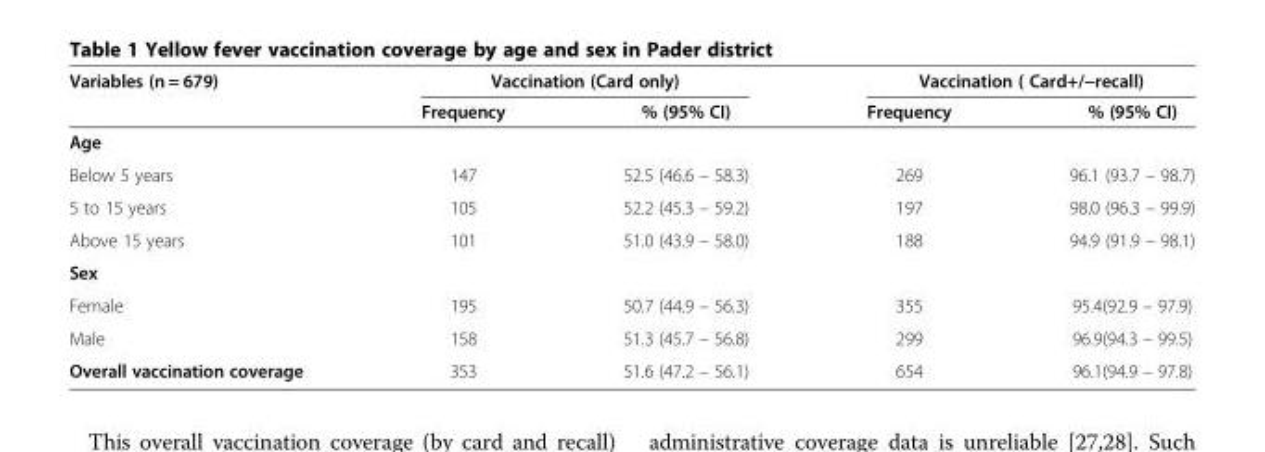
<table><thead><tr><td rowspan="2">Variables (n = 679)</td><td colspan="2">Vaccination (Card only)</td><td colspan="2">Vaccination ( Card+/−recall)</td></tr><tr><td>Frequency</td><td>% (95% CI)</td><td>Frequency</td><td>% (95% CI)</td></tr></thead><tbody><tr><td colspan="5">Age</td></tr><tr><td>Below 5 years</td><td>147</td><td>52.5 (46.6 – 58.3)</td><td>269</td><td>96.1 (93.7 – 98.7)</td></tr><tr><td>5 to 15 years</td><td>105</td><td>52.2 (45.3 – 59.2)</td><td>197</td><td>98.0 (96.3 – 99.9)</td></tr><tr><td>Above 15 years</td><td>101</td><td>51.0 (43.9 – 58.0)</td><td>188</td><td>94.9 (91.9 – 98.1)</td></tr><tr><td colspan="5">Sex</td></tr><tr><td>Female</td><td>195</td><td>50.7 (44.9 – 56.3)</td><td>355</td><td>95.4(92.9 – 97.9)</td></tr><tr><td>Male</td><td>158</td><td>51.3 (45.7 – 56.8)</td><td>299</td><td>96.9(94.3 – 99.5)</td></tr><tr><td>Overall vaccination coverage</td><td>353</td><td>51.6 (47.2 – 56.1)</td><td>654</td><td>96.1(94.9 – 97.8)</td></tr></tbody></table>